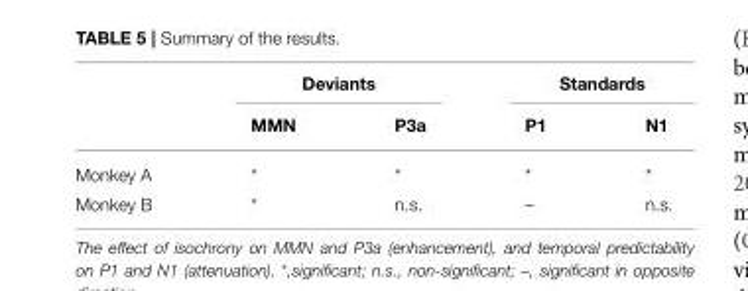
<table><thead><tr><td rowspan="2"></td><td colspan="2">Deviants</td><td colspan="2">Standards</td></tr><tr><td>MMN</td><td>P3a</td><td>P1</td><td>N1</td></tr></thead><tbody><tr><td>Monkey A</td><td>*</td><td>*</td><td>*</td><td>*</td></tr><tr><td>Monkey B</td><td>*</td><td>n.s.</td><td><sup>–</sup></td><td>n.s.</td></tr></tbody></table>